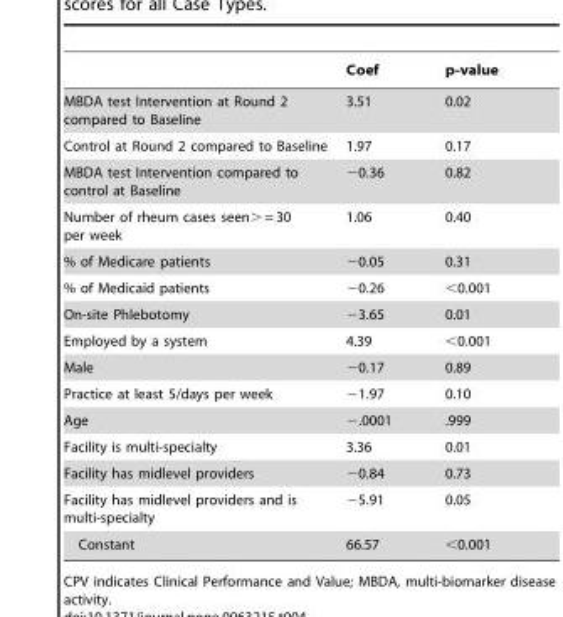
<table><thead><tr><td></td><td>Coef</td><td>p-value</td></tr></thead><tbody><tr><td>MBDA test Intervention at Round 2 compared to Baseline</td><td>3.51</td><td>0.02</td></tr><tr><td>Control at Round 2 compared to Baseline</td><td>1.97</td><td>0.17</td></tr><tr><td>MBDA test Intervention compared to control at Baseline</td><td>−0.36</td><td>0.82</td></tr><tr><td>Number of rheum cases seen&gt; = 30 per week</td><td>1.06</td><td>0.40</td></tr><tr><td>% of Medicare patients</td><td>−0.05</td><td>0.31</td></tr><tr><td>% of Medicaid patients</td><td>−0.26</td><td>&lt;0.001</td></tr><tr><td>On-site Phlebotomy</td><td>−3.65</td><td>0.01</td></tr><tr><td>Employed by a system</td><td>4.39</td><td>&lt;0.001</td></tr><tr><td>Male</td><td>−0.17</td><td>0.89</td></tr><tr><td>Practice at least 5/days per week</td><td>−1.97</td><td>0.10</td></tr><tr><td>Age</td><td>−.0001</td><td>.999</td></tr><tr><td>Facility is multi-specialty</td><td>3.36</td><td>0.01</td></tr><tr><td>Facility has midlevel providers</td><td>−0.84</td><td>0.73</td></tr><tr><td>Facility has midlevel providers and is multi-specialty</td><td>−5.91</td><td>0.05</td></tr><tr><td>Constant</td><td>66.57</td><td>&lt;0.001</td></tr></tbody></table>